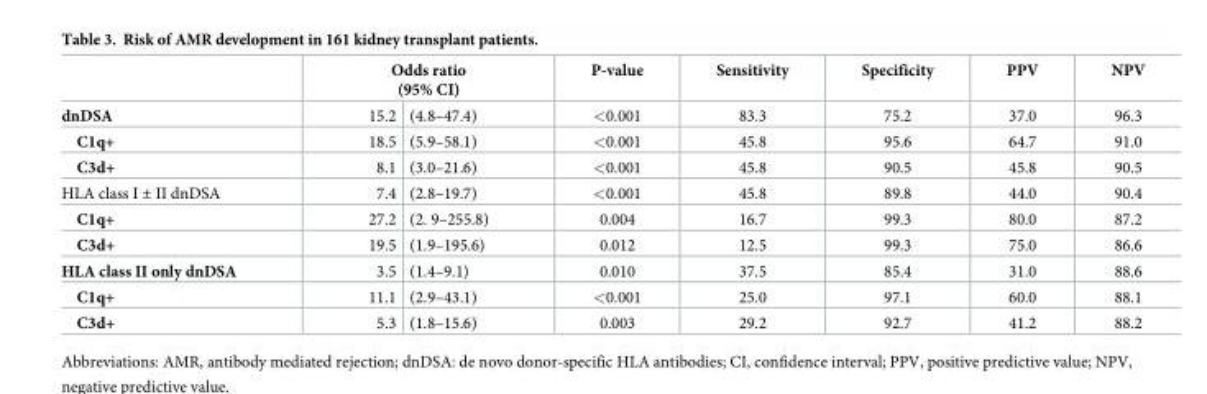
<table><thead><tr><td rowspan="2">dnDSA</td><td colspan="2">Odds ratio (95% CI)</td><td rowspan="2">P-value &lt;0.001</td><td rowspan="2">Sensitivity 83.3</td><td rowspan="2">Specificity 75.2</td><td rowspan="2">PPV 37.0</td><td rowspan="2">NPV 96.3</td></tr><tr><td>15.2</td><td>(4.8–47.4)</td></tr></thead><tbody><tr><td>C1q+</td><td>18.5</td><td>(5.9–58.1)</td><td>&lt;0.001</td><td>45.8</td><td>95.6</td><td>64.7</td><td>91.0</td></tr><tr><td>C3d+</td><td>8.1</td><td>(3.0–21.6)</td><td>&lt;0.001</td><td>45.8</td><td>90.5</td><td>45.8</td><td>90.5</td></tr><tr><td>HLA class I ± II dnDSA</td><td>7.4</td><td>(2.8–19.7)</td><td>&lt;0.001</td><td>45.8</td><td>89.8</td><td>44.0</td><td>90.4</td></tr><tr><td>C1q+</td><td>27.2</td><td>(2. 9–255.8)</td><td>0.004</td><td>16.7</td><td>99.3</td><td>80.0</td><td>87.2</td></tr><tr><td>C3d+</td><td>19.5</td><td>(1.9–195.6)</td><td>0.012</td><td>12.5</td><td>99.3</td><td>75.0</td><td>86.6</td></tr><tr><td>HLA class II only dnDSA</td><td>3.5</td><td>(1.4–9.1)</td><td>0.010</td><td>37.5</td><td>85.4</td><td>31.0</td><td>88.6</td></tr><tr><td>C1q+</td><td>11.1</td><td>(2.9–43.1)</td><td>&lt;0.001</td><td>25.0</td><td>97.1</td><td>60.0</td><td>88.1</td></tr><tr><td>C3d+</td><td>5.3</td><td>(1.8–15.6)</td><td>0.003</td><td>29.2</td><td>92.7</td><td>41.2</td><td>88.2</td></tr></tbody></table>